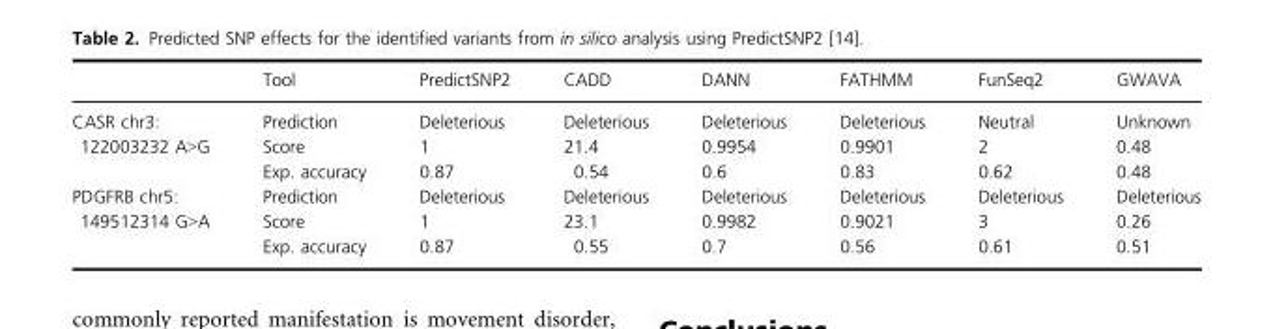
<table><thead><tr><td></td><td>Tool</td><td>PredictSNP2</td><td>CADD</td><td>DANN</td><td>FATHMM</td><td>FunSeq2</td><td>GWAVA</td></tr></thead><tbody><tr><td rowspan="3">CASR chr3: 122003232 A&gt;G</td><td>Prediction</td><td>Deleterious</td><td>Deleterious</td><td>Deleterious</td><td>Deleterious</td><td>Neutral</td><td>Unknown</td></tr><tr><td>Score</td><td>1</td><td>21.4</td><td>0.9954</td><td>0.9901</td><td>2</td><td>0.48</td></tr><tr><td>Exp. accuracy</td><td>0.87</td><td>0.54</td><td>0.6</td><td>0.83</td><td>0.62</td><td>0.48</td></tr><tr><td rowspan="3">PDGFRB chr5: 149512314 G&gt;A</td><td>Prediction</td><td>Deleterious</td><td>Deleterious</td><td>Deleterious</td><td>Deleterious</td><td>Deleterious</td><td>Deleterious</td></tr><tr><td>Score</td><td>1</td><td>23.1</td><td>0.9982</td><td>0.9021</td><td>3</td><td>0.26</td></tr><tr><td>Exp. accuracy</td><td>0.87</td><td>0.55</td><td>0.7</td><td>0.56</td><td>0.61</td><td>0.51</td></tr></tbody></table>